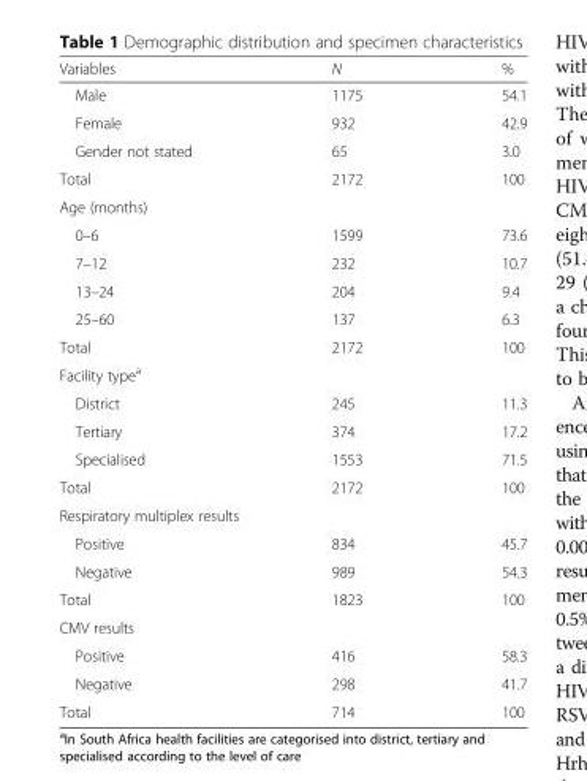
<table><thead><tr><td>Variables</td><td>N</td><td>%</td></tr></thead><tbody><tr><td>Male</td><td>1175</td><td>54.1</td></tr><tr><td>Female</td><td>932</td><td>42.9</td></tr><tr><td>Gender not stated</td><td>65</td><td>3.0</td></tr><tr><td>Total</td><td>2172</td><td>100</td></tr><tr><td colspan="3">Age (months)</td></tr><tr><td>0–6</td><td>1599</td><td>73.6</td></tr><tr><td>7–12</td><td>232</td><td>10.7</td></tr><tr><td>13–24</td><td>204</td><td>9.4</td></tr><tr><td>25–60</td><td>137</td><td>6.3</td></tr><tr><td>Total</td><td>2172</td><td>100</td></tr><tr><td colspan="3">Facility type<sup>a</sup></td></tr><tr><td>District</td><td>245</td><td>11.3</td></tr><tr><td>Tertiary</td><td>374</td><td>17.2</td></tr><tr><td>Specialised</td><td>1553</td><td>71.5</td></tr><tr><td>Total</td><td>2172</td><td>100</td></tr><tr><td colspan="3">Respiratory multiplex results</td></tr><tr><td>Positive</td><td>834</td><td>45.7</td></tr><tr><td>Negative</td><td>989</td><td>54.3</td></tr><tr><td>Total</td><td>1823</td><td>100</td></tr><tr><td colspan="3">CMV results</td></tr><tr><td>Positive</td><td>416</td><td>58.3</td></tr><tr><td>Negative</td><td>298</td><td>41.7</td></tr><tr><td>Total</td><td>714</td><td>100</td></tr></tbody></table>